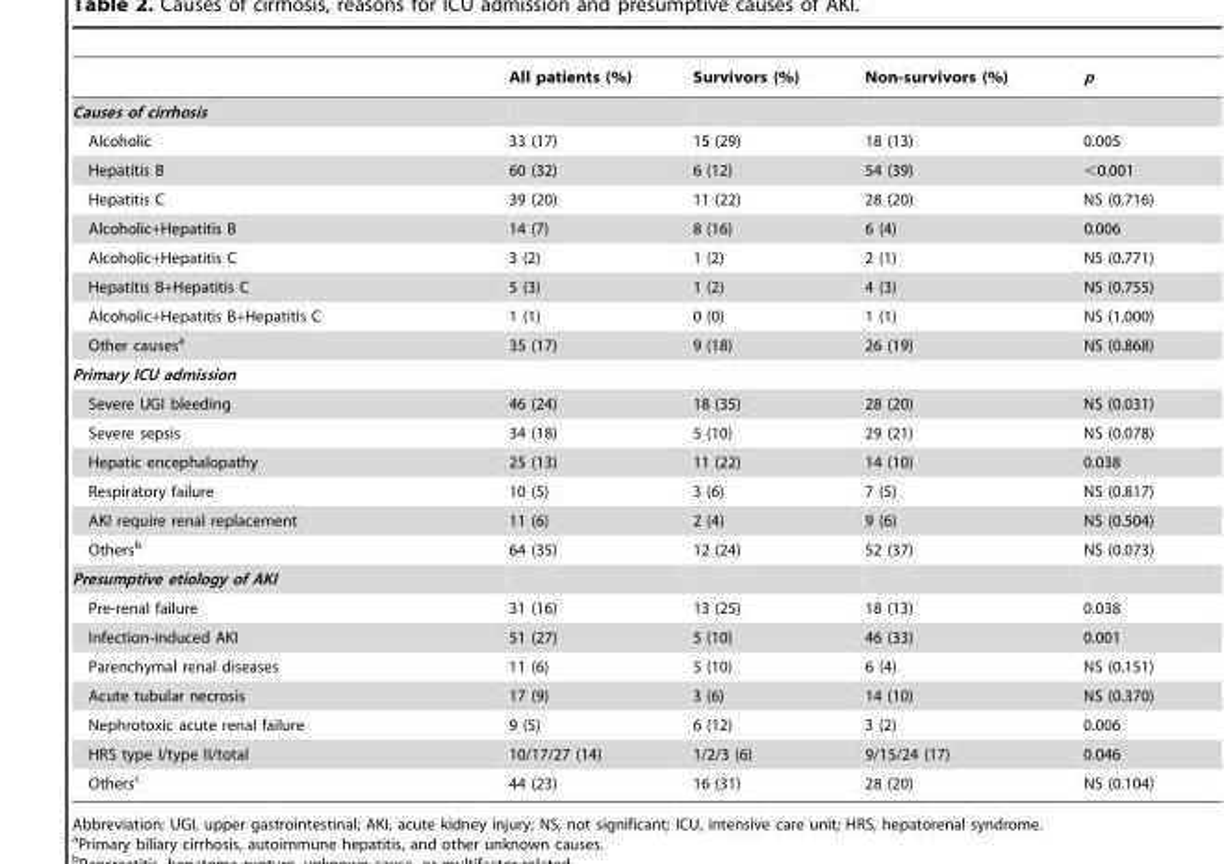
<table><thead><tr><td></td><td>All patients (%)</td><td>Survivors (%)</td><td>Non-survivors (%)</td><td>p</td></tr></thead><tbody><tr><td colspan="5">Causes of cirrhosis</td></tr><tr><td>Alcoholic</td><td>33 (17)</td><td>15 (29)</td><td>18 (13)</td><td>0.005</td></tr><tr><td>Hepatitis B</td><td>60 (32)</td><td>6 (12)</td><td>54 (39)</td><td>&lt;0.001</td></tr><tr><td>Hepatitis C</td><td>39 (20)</td><td>11 (22)</td><td>28 (20)</td><td>NS (0.716)</td></tr><tr><td>Alcoholic+Hepatitis B</td><td>14 (7)</td><td>8 (16)</td><td>6 (4)</td><td>0.006</td></tr><tr><td>Alcoholic+Hepatitis C</td><td>3 (2)</td><td>1 (2)</td><td>2 (1)</td><td>NS (0.771)</td></tr><tr><td>Hepatitis B+Hepatitis C</td><td>5 (3)</td><td>1 (2)</td><td>4 (3)</td><td>NS (0.755)</td></tr><tr><td>Alcoholic+Hepatitis B+Hepatitis C</td><td>1 (1)</td><td>0 (0)</td><td>1 (1)</td><td>NS (1.000)</td></tr><tr><td>Other causes<sup>a</sup></td><td>35 (17)</td><td>9 (18)</td><td>26 (19)</td><td>NS (0.868)</td></tr><tr><td colspan="5">Primary ICU admission</td></tr><tr><td>Severe UGI bleeding</td><td>46 (24)</td><td>18 (35)</td><td>28 (20)</td><td>NS (0.031)</td></tr><tr><td>Severe sepsis</td><td>34 (18)</td><td>5 (10)</td><td>29 (21)</td><td>NS (0.078)</td></tr><tr><td>Hepatic encephalopathy</td><td>25 (13)</td><td>11 (22)</td><td>14 (10)</td><td>0.038</td></tr><tr><td>Respiratory failure</td><td>10 (5)</td><td>3 (6)</td><td>7 (5)</td><td>NS (0.817)</td></tr><tr><td>AKI require renal replacement</td><td>11 (6)</td><td>2 (4)</td><td>9 (6)</td><td>NS (0.504)</td></tr><tr><td>Others<sup>b</sup></td><td>64 (35)</td><td>12 (24)</td><td>52 (37)</td><td>NS (0.073)</td></tr><tr><td colspan="5">Presumptive etiology of AKI</td></tr><tr><td>Pre-renal failure</td><td>31 (16)</td><td>13 (25)</td><td>18 (13)</td><td>0.038</td></tr><tr><td>Infection-induced AKI</td><td>51 (27)</td><td>5 (10)</td><td>46 (33)</td><td>0.001</td></tr><tr><td>Parenchymal renal diseases</td><td>11 (6)</td><td>5 (10)</td><td>6 (4)</td><td>NS (0.151)</td></tr><tr><td>Acute tubular necrosis</td><td>17 (9)</td><td>3 (6)</td><td>14 (10)</td><td>NS (0.370)</td></tr><tr><td>Nephrotoxic acute renal failure</td><td>9 (5)</td><td>6 (12)</td><td>3 (2)</td><td>0.006</td></tr><tr><td>HRS type I/type II/total</td><td>10/17/27 (14)</td><td>1/2/3 (6)</td><td>9/15/24 (17)</td><td>0.046</td></tr><tr><td>Others<sup>c</sup></td><td>44 (23)</td><td>16 (31)</td><td>28 (20)</td><td>NS (0.104)</td></tr></tbody></table>